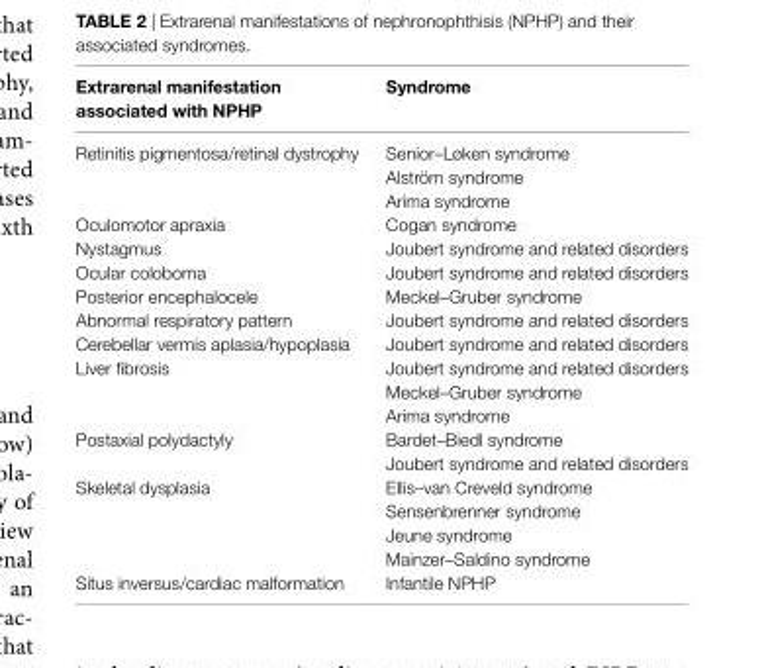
<table><thead><tr><td>extrarenal manifestation associated with NPHP</td><td>Syndrome</td></tr></thead><tbody><tr><td rowspan="3">Retinitis pigmentosa/retinal dystrophy</td><td>Senior–Løken syndrome</td></tr><tr><td>Alström syndrome</td></tr><tr><td>Arima syndrome</td></tr><tr><td>Oculomotor apraxia</td><td>Cogan syndrome</td></tr><tr><td>Nystagmus</td><td>Joubert syndrome and related disorders</td></tr><tr><td>Ocular coloboma</td><td>Joubert syndrome and related disorders</td></tr><tr><td>Posterior encephalocele</td><td>Meckel–Gruber syndrome</td></tr><tr><td>Abnormal respiratory pattern</td><td>Joubert syndrome and related disorders</td></tr><tr><td>Cerebellar vermis aplasia/hypoplasia</td><td>Joubert syndrome and related disorders</td></tr><tr><td rowspan="3">Liver fibrosis</td><td>Joubert syndrome and related disorders</td></tr><tr><td>Meckel–Gruber syndrome</td></tr><tr><td>Arima syndrome</td></tr><tr><td rowspan="2">Postaxial polydactyly</td><td>Bardet–Biedl syndrome</td></tr><tr><td>Joubert syndrome and related disorders</td></tr><tr><td rowspan="4">Skeletal dysplasia</td><td>Ellis–van Creveld syndrome</td></tr><tr><td>Sensenbrenner syndrome</td></tr><tr><td>Jeune syndrome</td></tr><tr><td>Mainzer–Saldino syndrome</td></tr><tr><td>Situs inversus/cardiac malformation</td><td>Infantile NPHP</td></tr></tbody></table>